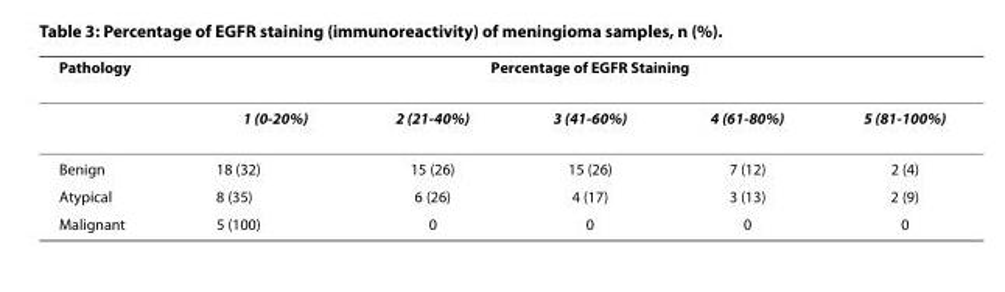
<table><thead><tr><td rowspan="2">Pathology</td><td colspan="5">Percentage of EGFR Staining</td></tr><tr><td>1 (0-20%)</td><td>2 (21-40%)</td><td>3 (41-60%)</td><td>4 (61-80%)</td><td>5 (81-100%)</td></tr></thead><tbody><tr><td>Benign</td><td>18 (32)</td><td>15 (26)</td><td>15 (26)</td><td>7 (12)</td><td>2 (4)</td></tr><tr><td>Atypical</td><td>8 (35)</td><td>6 (26)</td><td>4 (17)</td><td>3 (13)</td><td>2 (9)</td></tr><tr><td>Malignant</td><td>5 (100)</td><td>0</td><td>0</td><td>0</td><td>0</td></tr></tbody></table>